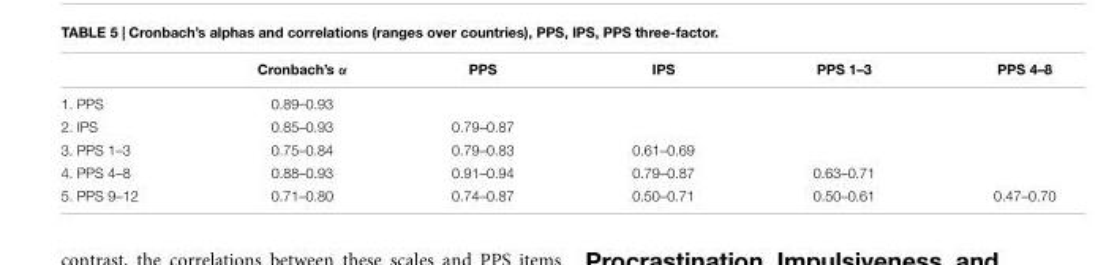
<table><thead><tr><td></td><td>Cronbach’s α</td><td>PPS</td><td>IPS</td><td>PPS 1–3</td><td>PPS 4–8</td></tr></thead><tbody><tr><td>1. PPS</td><td>0.89–0.93</td><td></td><td></td><td></td><td></td></tr><tr><td>2. IPS</td><td>0.85–0.93</td><td>0.79–0.87</td><td></td><td></td><td></td></tr><tr><td>3. PPS 1–3</td><td>0.75–0.84</td><td>0.79–0.83</td><td>0.61–0.69</td><td></td><td></td></tr><tr><td>4. PPS 4–8</td><td>0.88–0.93</td><td>0.91–0.94</td><td>0.79–0.87</td><td>0.63–0.71</td><td></td></tr><tr><td>5. PPS 9–12</td><td>0.71–0.80</td><td>0.74–0.87</td><td>0.50–0.71</td><td>0.50–0.61</td><td>0.47–0.70</td></tr></tbody></table>